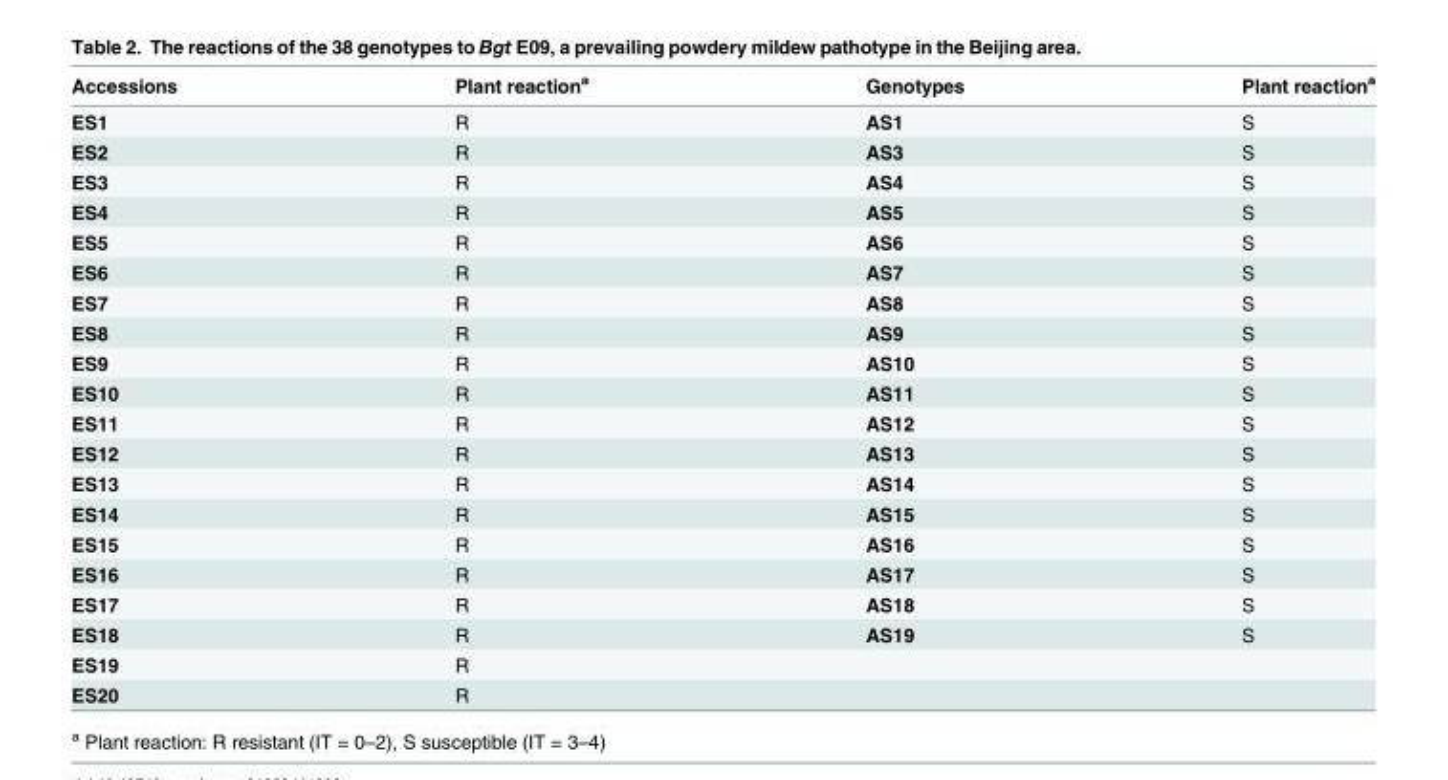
<table><thead><tr><td>Accessions</td><td>Plant reaction<sup>a</sup></td><td>Genotypes</td><td>Plant reaction<sup>a</sup></td></tr></thead><tbody><tr><td>ES1</td><td>R</td><td>AS1</td><td>S</td></tr><tr><td>ES2</td><td>R</td><td>AS3</td><td>S</td></tr><tr><td>ES3</td><td>R</td><td>AS4</td><td>S</td></tr><tr><td>ES4</td><td>R</td><td>AS5</td><td>S</td></tr><tr><td>ES5</td><td>R</td><td>AS6</td><td>S</td></tr><tr><td>ES6</td><td>R</td><td>AS7</td><td>S</td></tr><tr><td>ES7</td><td>R</td><td>AS8</td><td>S</td></tr><tr><td>ES8</td><td>R</td><td>AS9</td><td>S</td></tr><tr><td>ES9</td><td>R</td><td>AS10</td><td>S</td></tr><tr><td>ES10</td><td>R</td><td>AS11</td><td>S</td></tr><tr><td>ES11</td><td>R</td><td>AS12</td><td>S</td></tr><tr><td>ES12</td><td>R</td><td>AS13</td><td>S</td></tr><tr><td>ES13</td><td>R</td><td>AS14</td><td>S</td></tr><tr><td>ES14</td><td>R</td><td>AS15</td><td>S</td></tr><tr><td>ES15</td><td>R</td><td>AS16</td><td>S</td></tr><tr><td>ES16</td><td>R</td><td>AS17</td><td>S</td></tr><tr><td>ES17</td><td>R</td><td>AS18</td><td>S</td></tr><tr><td>ES18</td><td>R</td><td>AS19</td><td>S</td></tr><tr><td>ES19</td><td>R</td><td></td><td></td></tr><tr><td>ES20</td><td>R</td><td></td><td></td></tr></tbody></table>